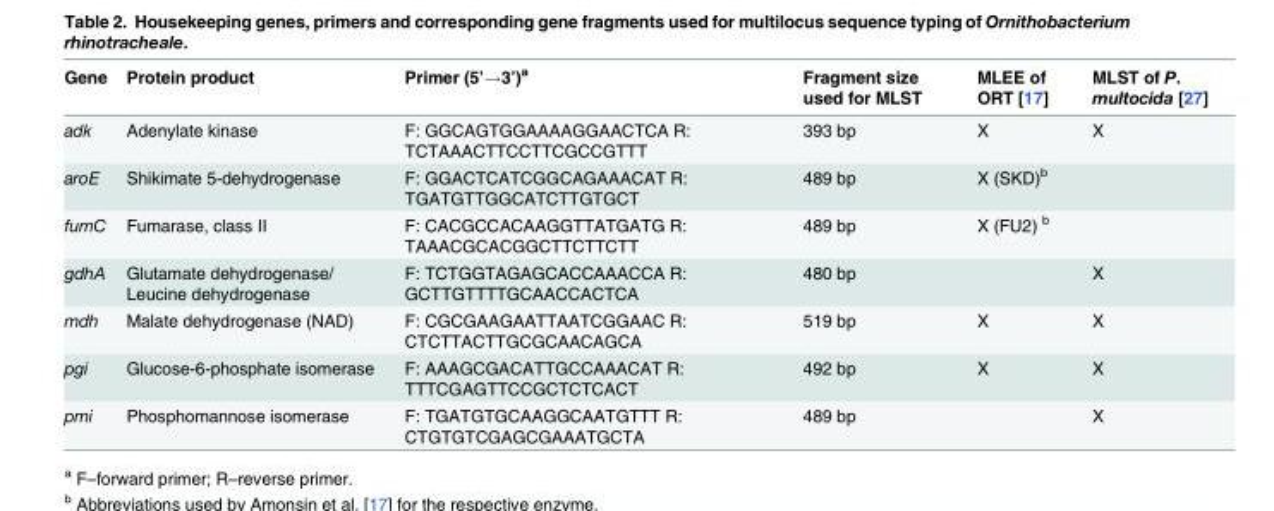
<table><thead><tr><td>Gene</td><td>Protein product</td><td>Primer (5’→3’)<sup>a</sup></td><td>Fragment size used for MLST</td><td>MLEE of ORT [17]</td><td>MLST of P. multocida [27]</td></tr></thead><tbody><tr><td>adk</td><td>Adenylate kinase</td><td>F: GGCAGTGGAAAAGGAACTCA R: TCTAAACTTCCTTCGCCGTTT</td><td>393 bp</td><td>X</td><td>X</td></tr><tr><td>aroE</td><td>Shikimate 5-dehydrogenase</td><td>F: GGACTCATCGGCAGAAACAT R: TGATGTTGGCATCTTGTGCT</td><td>489 bp</td><td>X (SKD)<sup>b</sup></td><td></td></tr><tr><td>fumC</td><td>Fumarase, class II</td><td>F: CACGCCACAAGGTTATGATG R: TAAACGCACGGCTTCTTCTT</td><td>489 bp</td><td>X (FU2) <sup>b</sup></td><td></td></tr><tr><td>gdhA</td><td>Glutamate dehydrogenase/ Leucine dehydrogenase</td><td>F: TCTGGTAGAGCACCAAACCA R: GCTTGTTTTGCAACCACTCA</td><td>480 bp</td><td></td><td>X</td></tr><tr><td>mdh</td><td>Malate dehydrogenase (NAD)</td><td>F: CGCGAAGAATTAATCGGAAC R: CTCTTACTTGCGCAACAGCA</td><td>519 bp</td><td>X</td><td>X</td></tr><tr><td>pgi</td><td>Glucose-6-phosphate isomerase</td><td>F: AAAGCGACATTGCCAAACAT R: TTTCGAGTTCCGCTCTCACT</td><td>492 bp</td><td>X</td><td>X</td></tr><tr><td>pmi</td><td>Phosphomannose isomerase</td><td>F: TGATGTGCAAGGCAATGTTT R: CTGTGTCGAGCGAAATGCTA</td><td>489 bp</td><td></td><td>X</td></tr></tbody></table>